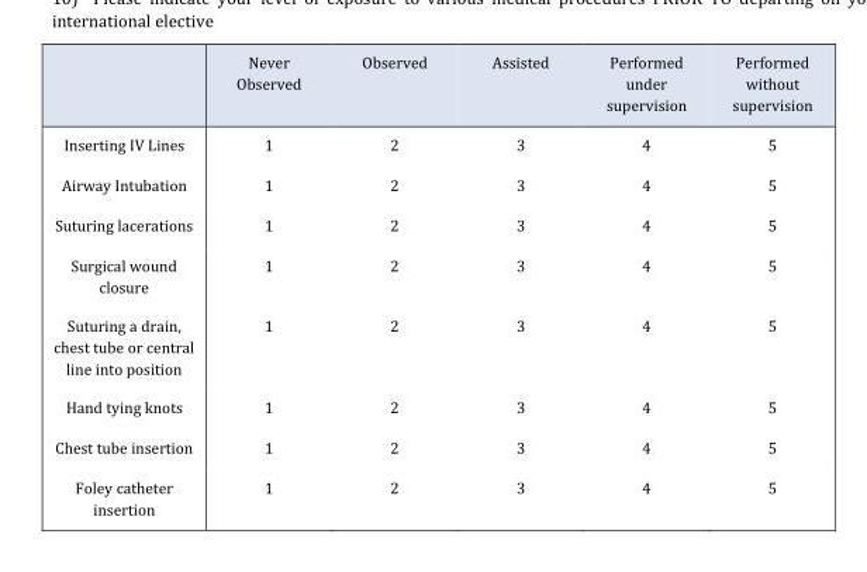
<table><thead><tr><td></td><td>Never Observed</td><td>Observed</td><td>Assisted</td><td>Performed under supervision</td><td>Performed without supervision</td></tr></thead><tbody><tr><td>Inserting IV Lines</td><td>1</td><td>2</td><td>3</td><td>4</td><td>5</td></tr><tr><td>Airway Intubation</td><td>1</td><td>2</td><td>3</td><td>4</td><td>5</td></tr><tr><td>Suturing lacerations</td><td>1</td><td>2</td><td>3</td><td>4</td><td>5</td></tr><tr><td>Surgical wound closure</td><td>1</td><td>2</td><td>3</td><td>4</td><td>5</td></tr><tr><td>Suturing a drain, chest tube or central line into position</td><td>1</td><td>2</td><td>3</td><td>4</td><td>5</td></tr><tr><td>Hand tying knots</td><td>1</td><td>2</td><td>3</td><td>4</td><td>5</td></tr><tr><td>Chest tube insertion</td><td>1</td><td>2</td><td>3</td><td>4</td><td>5</td></tr><tr><td>Foley catheter insertion</td><td>1</td><td>2</td><td>3</td><td>4</td><td>5</td></tr></tbody></table>